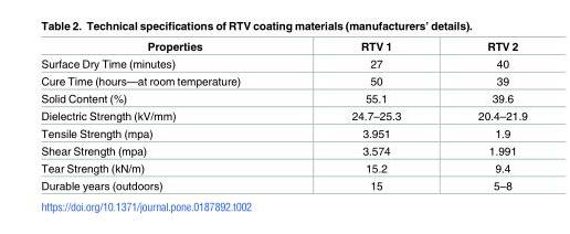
<table><thead><tr><td>Properties</td><td>RTV 1</td><td>RTV 2</td></tr></thead><tbody><tr><td>Surface Dry Time (minutes)</td><td>27</td><td>40</td></tr><tr><td>Cure Time (hours—at room temperature)</td><td>50</td><td>39</td></tr><tr><td>Solid Content (%)</td><td>55.1</td><td>39.6</td></tr><tr><td>Dielectric Strength (kV/mm)</td><td>24.7–25.3</td><td>20.4–21.9</td></tr><tr><td>Tensile Strength (mpa)</td><td>3.951</td><td>1.9</td></tr><tr><td>Shear Strength (mpa)</td><td>3.574</td><td>1.991</td></tr><tr><td>Tear Strength (kN/m)</td><td>15.2</td><td>9.4</td></tr><tr><td>Durable years (outdoors)</td><td>15</td><td>5–8</td></tr></tbody></table>